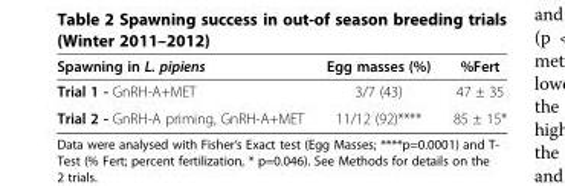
<table><thead><tr><td>Spawning in L. pipiens</td><td>Egg masses (%)</td><td>%Fert</td></tr></thead><tbody><tr><td>Trial 1 - GnRH-A+MET</td><td>3/7 (43)</td><td>47 ± 35</td></tr><tr><td>Trial 2 - GnRH-A priming, GnRH-A+MET</td><td>11/12 (92)****</td><td>85 ± 15*</td></tr></tbody></table>